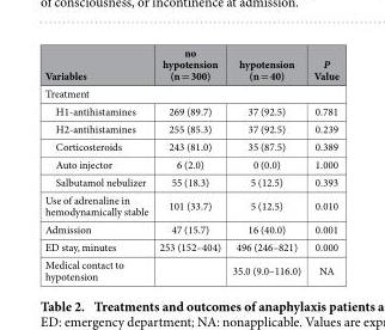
<table><thead><tr><td>Variables</td><td>no hypotension (n = 300)</td><td>hypotension (n = 40)</td><td>P Value</td></tr></thead><tbody><tr><td colspan="4">Treatment</td></tr><tr><td>H1-antihistamines</td><td>269 (89.7)</td><td>37 (92.5)</td><td>0.781</td></tr><tr><td>H2-antihistamines</td><td>255 (85.3)</td><td>37 (92.5)</td><td>0.239</td></tr><tr><td>Corticosteroids</td><td>243 (81.0)</td><td>35 (87.5)</td><td>0.389</td></tr><tr><td>Auto injector</td><td>6 (2.0)</td><td>0 (0.0)</td><td>1.000</td></tr><tr><td>Salbutamol nebulizer</td><td>55 (18.3)</td><td>5 (12.5)</td><td>0.393</td></tr><tr><td>Use of adrenaline in hemodynamically stable</td><td>101 (33.7)</td><td>5 (12.5)</td><td>0.010</td></tr><tr><td>Admission</td><td>47 (15.7)</td><td>16 (40.0)</td><td>0.001</td></tr><tr><td>ED stay, minutes</td><td>253 (152–404)</td><td>496 (246–821)</td><td>0.000</td></tr><tr><td>Medical contact to hypotension</td><td></td><td>35.0 (9.0–116.0)</td><td>NA</td></tr></tbody></table>